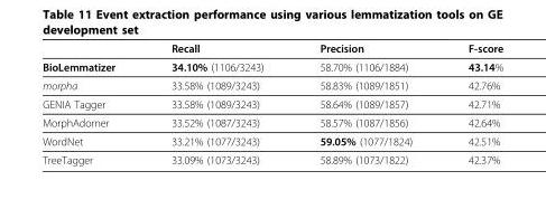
<table><thead><tr><td></td><td>Recall</td><td>Precision</td><td>F-score</td></tr></thead><tbody><tr><td>BioLemmatizer</td><td>34.10% (1106/3243)</td><td>58.70% (1106/1884)</td><td>43.14%</td></tr><tr><td>morpha</td><td>33.58% (1089/3243)</td><td>58.83% (1089/1851)</td><td>42.76%</td></tr><tr><td>GENIA Tagger</td><td>33.58% (1089/3243)</td><td>58.64% (1089/1857)</td><td>42.71%</td></tr><tr><td>MorphAdorner</td><td>33.52% (1087/3243)</td><td>58.57% (1087/1856)</td><td>42.64%</td></tr><tr><td>WordNet</td><td>33.21% (1077/3243)</td><td>59.05% (1077/1824)</td><td>42.51%</td></tr><tr><td>TreeTagger</td><td>33.09% (1073/3243)</td><td>58.89% (1073/1822)</td><td>42.37%</td></tr></tbody></table>